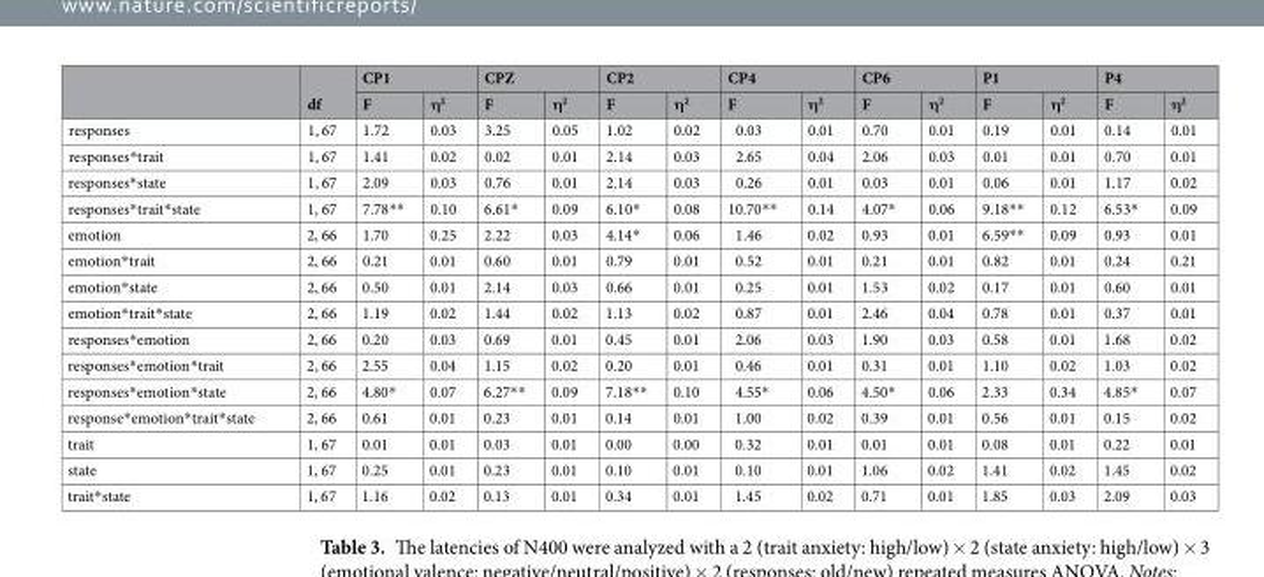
<table><thead><tr><td rowspan="2"></td><td rowspan="2">df</td><td colspan="2">CP1</td><td colspan="2">CPZ</td><td colspan="2">CP2</td><td colspan="2">CP4</td><td colspan="2">CP6</td><td colspan="2">P1</td><td colspan="2">P4</td></tr><tr><td>F</td><td>η<sup>2</sup></td><td>F</td><td>η<sup>2</sup></td><td>F</td><td>η<sup>2</sup></td><td>F</td><td>η<sup>2</sup></td><td>F</td><td>η<sup>2</sup></td><td>F</td><td>η<sup>2</sup></td><td>F</td><td>η<sup>2</sup></td></tr></thead><tbody><tr><td>responses</td><td>1, 67</td><td>1.72</td><td>0.03</td><td>3.25</td><td>0.05</td><td>1.02</td><td>0.02</td><td>0.03</td><td>0.01</td><td>0.70</td><td>0.01</td><td>0.19</td><td>0.01</td><td>0.14</td><td>0.01</td></tr><tr><td>responses*trait</td><td>1, 67</td><td>1.41</td><td>0.02</td><td>0.02</td><td>0.01</td><td>2.14</td><td>0.03</td><td>2.65</td><td>0.04</td><td>2.06</td><td>0.03</td><td>0.01</td><td>0.01</td><td>0.70</td><td>0.01</td></tr><tr><td>responses*state</td><td>1, 67</td><td>2.09</td><td>0.03</td><td>0.76</td><td>0.01</td><td>2.14</td><td>0.03</td><td>0.26</td><td>0.01</td><td>0.03</td><td>0.01</td><td>0.06</td><td>0.01</td><td>1.17</td><td>0.02</td></tr><tr><td>responses*trait*state</td><td>1, 67</td><td>7.78**</td><td>0.10</td><td>6.61*</td><td>0.09</td><td>6.10*</td><td>0.08</td><td>10.70**</td><td>0.14</td><td>4.07*</td><td>0.06</td><td>9.18**</td><td>0.12</td><td>6.53*</td><td>0.09</td></tr><tr><td>emotion</td><td>2, 66</td><td>1.70</td><td>0.25</td><td>2.22</td><td>0.03</td><td>4.14*</td><td>0.06</td><td>1.46</td><td>0.02</td><td>0.93</td><td>0.01</td><td>6.59**</td><td>0.09</td><td>0.93</td><td>0.01</td></tr><tr><td>emotion*trait</td><td>2, 66</td><td>0.21</td><td>0.01</td><td>0.60</td><td>0.01</td><td>0.79</td><td>0.01</td><td>0.52</td><td>0.01</td><td>0.21</td><td>0.01</td><td>0.82</td><td>0.01</td><td>0.24</td><td>0.21</td></tr><tr><td>emotion*state</td><td>2, 66</td><td>0.50</td><td>0.01</td><td>2.14</td><td>0.03</td><td>0.66</td><td>0.01</td><td>0.25</td><td>0.01</td><td>1.53</td><td>0.02</td><td>0.17</td><td>0.01</td><td>0.60</td><td>0.01</td></tr><tr><td>emotion*trait*state</td><td>2, 66</td><td>1.19</td><td>0.02</td><td>1.44</td><td>0.02</td><td>1.13</td><td>0.02</td><td>0.87</td><td>0.01</td><td>2.46</td><td>0.04</td><td>0.78</td><td>0.01</td><td>0.37</td><td>0.01</td></tr><tr><td>responses*emotion</td><td>2, 66</td><td>0.20</td><td>0.03</td><td>0.69</td><td>0.01</td><td>0.45</td><td>0.01</td><td>2.06</td><td>0.03</td><td>1.90</td><td>0.03</td><td>0.58</td><td>0.01</td><td>1.68</td><td>0.02</td></tr><tr><td>responses*emotion*trait</td><td>2, 66</td><td>2.55</td><td>0.04</td><td>1.15</td><td>0.02</td><td>0.20</td><td>0.01</td><td>0.46</td><td>0.01</td><td>0.31</td><td>0.01</td><td>1.10</td><td>0.02</td><td>1.03</td><td>0.02</td></tr><tr><td>responses*emotion*state</td><td>2, 66</td><td>4.80*</td><td>0.07</td><td>6.27**</td><td>0.09</td><td>7.18**</td><td>0.10</td><td>4.55*</td><td>0.06</td><td>4.50*</td><td>0.06</td><td>2.33</td><td>0.34</td><td>4.85*</td><td>0.07</td></tr><tr><td>response*emotion*trait*state</td><td>2, 66</td><td>0.61</td><td>0.01</td><td>0.23</td><td>0.01</td><td>0.14</td><td>0.01</td><td>1.00</td><td>0.02</td><td>0.39</td><td>0.01</td><td>0.56</td><td>0.01</td><td>0.15</td><td>0.02</td></tr><tr><td>trait</td><td>1, 67</td><td>0.01</td><td>0.01</td><td>0.03</td><td>0.01</td><td>0.00</td><td>0.00</td><td>0.32</td><td>0.01</td><td>0.01</td><td>0.01</td><td>0.08</td><td>0.01</td><td>0.22</td><td>0.01</td></tr><tr><td>state</td><td>1, 67</td><td>0.25</td><td>0.01</td><td>0.23</td><td>0.01</td><td>0.10</td><td>0.01</td><td>0.10</td><td>0.01</td><td>1.06</td><td>0.02</td><td>1.41</td><td>0.02</td><td>1.45</td><td>0.02</td></tr><tr><td>trait*state</td><td>1, 67</td><td>1.16</td><td>0.02</td><td>0.13</td><td>0.01</td><td>0.34</td><td>0.01</td><td>1.45</td><td>0.02</td><td>0.71</td><td>0.01</td><td>1.85</td><td>0.03</td><td>2.09</td><td>0.03</td></tr></tbody></table>